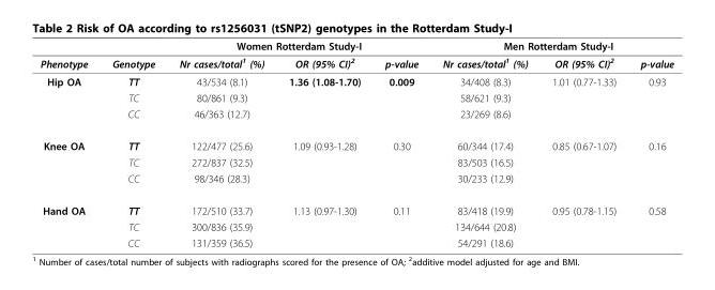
<table><thead><tr><td rowspan="2">Phenotype</td><td rowspan="2">Genotype</td><td colspan="3">Women Rotterdam Study-I</td><td colspan="3">Men Rotterdam Study-I</td></tr><tr><td>Nr cases/total<sup>1</sup> (%)</td><td>OR (95% CI)<sup>2</sup></td><td>p-value</td><td>Nr cases/total<sup>1</sup> (%)</td><td>OR (95% CI)<sup>2</sup></td><td>p-value</td></tr></thead><tbody><tr><td rowspan="3">Hip OA</td><td>TT</td><td>43/534 (8.1)</td><td>1.36 (1.08-1.70)</td><td>0.009</td><td>34/408 (8.3)</td><td>1.01 (0.77-1.33)</td><td>0.93</td></tr><tr><td>TC</td><td>80/861 (9.3)</td><td></td><td></td><td>58/621 (9.3)</td><td></td><td></td></tr><tr><td>CC</td><td>46/363 (12.7)</td><td></td><td></td><td>23/269 (8.6)</td><td></td><td></td></tr><tr><td rowspan="3">Knee OA</td><td>TT</td><td>122/477 (25.6)</td><td>1.09 (0.93-1.28)</td><td>0.30</td><td>60/344 (17.4)</td><td>0.85 (0.67-1.07)</td><td>0.16</td></tr><tr><td>TC</td><td>272/837 (32.5)</td><td></td><td></td><td>83/503 (16.5)</td><td></td><td></td></tr><tr><td>CC</td><td>98/346 (28.3)</td><td></td><td></td><td>30/233 (12.9)</td><td></td><td></td></tr><tr><td rowspan="3">Hand OA</td><td>TT</td><td>172/510 (33.7)</td><td>1.13 (0.97-1.30)</td><td>0.11</td><td>83/418 (19.9)</td><td>0.95 (0.78-1.15)</td><td>0.58</td></tr><tr><td>TC</td><td>300/836 (35.9)</td><td></td><td></td><td>134/644 (20.8)</td><td></td><td></td></tr><tr><td>CC</td><td>131/359 (36.5)</td><td></td><td></td><td>54/291 (18.6)</td><td></td><td></td></tr></tbody></table>